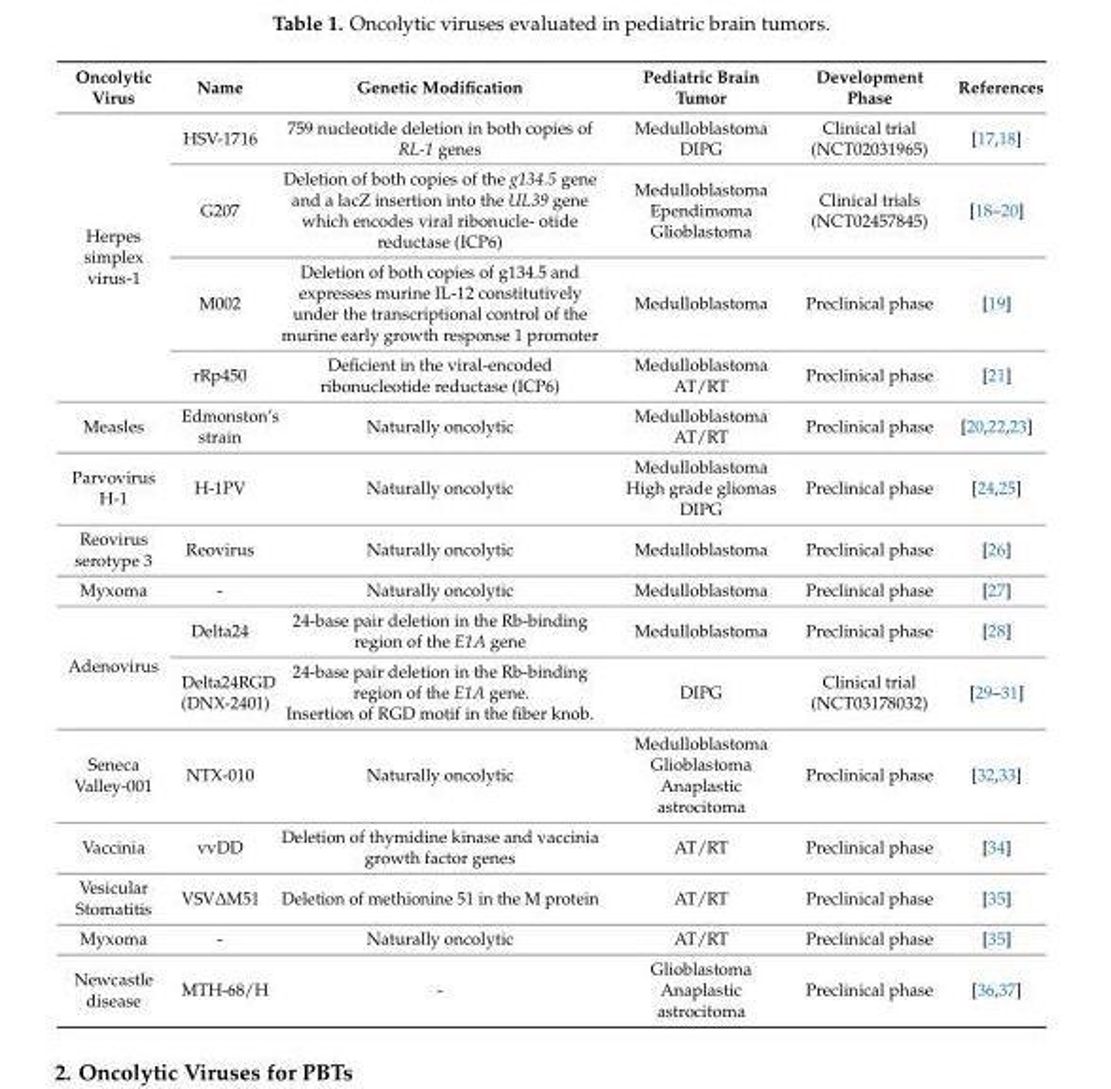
<table><thead><tr><td>Oncolytic Virus</td><td>Name</td><td>Genetic Modification</td><td>Pediatric Brain Tumor</td><td>Development Phase</td><td>References</td></tr></thead><tbody><tr><td rowspan="4">Herpes simplex virus-1</td><td>HSV-1716</td><td>759 nucleotide deletion in both copies of RL-1 genes</td><td>Medulloblastoma DIPG</td><td>Clinical trial (NCT02031965)</td><td>[17,18]</td></tr><tr><td>G207</td><td>Deletion of both copies of the g134.5 gene and a lacZ insertion into the UL39 gene which encodes viral ribonucle- otide reductase (ICP6)</td><td>Medulloblastoma Ependimoma Glioblastoma</td><td>Clinical trials (NCT02457845)</td><td>[18–20]</td></tr><tr><td>M002</td><td>Deletion of both copies of g134.5 and expresses murine IL-12 constitutively under the transcriptional control of the murine early growth response 1 promoter</td><td>Medulloblastoma</td><td>Preclinical phase</td><td>[19]</td></tr><tr><td>rRp450</td><td>Deficient in the viral-encoded ribonucleotide reductase (ICP6)</td><td>Medulloblastoma AT/RT</td><td>Preclinical phase</td><td>[21]</td></tr><tr><td>Measles</td><td>Edmonston’s strain</td><td>Naturally oncolytic</td><td>Medulloblastoma AT/RT</td><td>Preclinical phase</td><td>[20,22,23]</td></tr><tr><td>Parvovirus H-1</td><td>H-1PV</td><td>Naturally oncolytic</td><td>Medulloblastoma High grade gliomas DIPG</td><td>Preclinical phase</td><td>[24,25]</td></tr><tr><td>Reovirus serotype 3</td><td>Reovirus</td><td>Naturally oncolytic</td><td>Medulloblastoma</td><td>Preclinical phase</td><td>[26]</td></tr><tr><td>Myxoma</td><td>-</td><td>Naturally oncolytic</td><td>Medulloblastoma</td><td>Preclinical phase</td><td>[27]</td></tr><tr><td rowspan="2">Adenovirus</td><td>Delta24</td><td>24-base pair deletion in the Rb-binding region of the E1A gene</td><td>Medulloblastoma</td><td>Preclinical phase</td><td>[28]</td></tr><tr><td>Delta24RGD (DNX-2401)</td><td>24-base pair deletion in the Rb-binding region of the E1A gene. Insertion of RGD motif in the fiber knob.</td><td>DIPG</td><td>Clinical trial (NCT03178032)</td><td>[29–31]</td></tr><tr><td>Seneca Valley-001</td><td>NTX-010</td><td>Naturally oncolytic</td><td>Medulloblastoma Glioblastoma Anaplastic astrocitoma</td><td>Preclinical phase</td><td>[32,33]</td></tr><tr><td>Vaccinia</td><td>vvDD</td><td>Deletion of thymidine kinase and vaccinia growth factor genes</td><td>AT/RT</td><td>Preclinical phase</td><td>[34]</td></tr><tr><td>Vesicular Stomatitis</td><td>VSV∆M51</td><td>Deletion of methionine 51 in the M protein</td><td>AT/RT</td><td>Preclinical phase</td><td>[35]</td></tr><tr><td>Myxoma</td><td>-</td><td>Naturally oncolytic</td><td>AT/RT</td><td>Preclinical phase</td><td>[35]</td></tr><tr><td>Newcastle disease</td><td>MTH-68/H</td><td>-</td><td>Glioblastoma Anaplastic astrocitoma</td><td>Preclinical phase</td><td>[36,37]</td></tr></tbody></table>